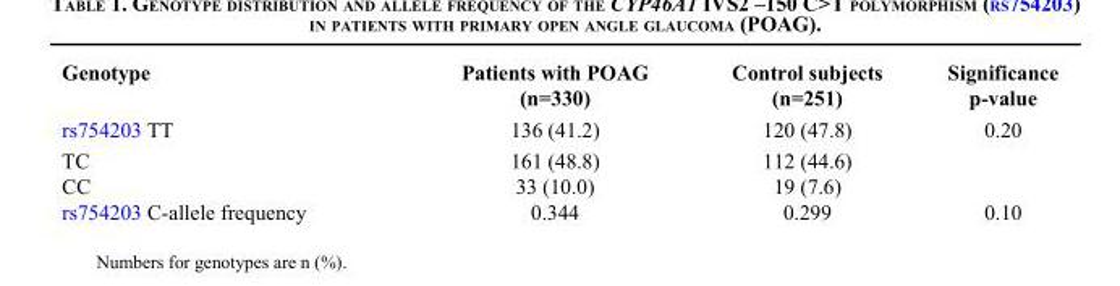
<table><thead><tr><td>Genotype</td><td>Patients with POAG (n=330)</td><td>Control subjects (n=251)</td><td>Significance p-value</td></tr></thead><tbody><tr><td>rs754203 TT</td><td>136 (41.2)</td><td>120 (47.8)</td><td>0.20</td></tr><tr><td>TC</td><td>161 (48.8)</td><td>112 (44.6)</td><td></td></tr><tr><td>CC</td><td>33 (10.0)</td><td>19 (7.6)</td><td></td></tr><tr><td>rs754203 C-allele frequency</td><td>0.344</td><td>0.299</td><td>0.10</td></tr></tbody></table>